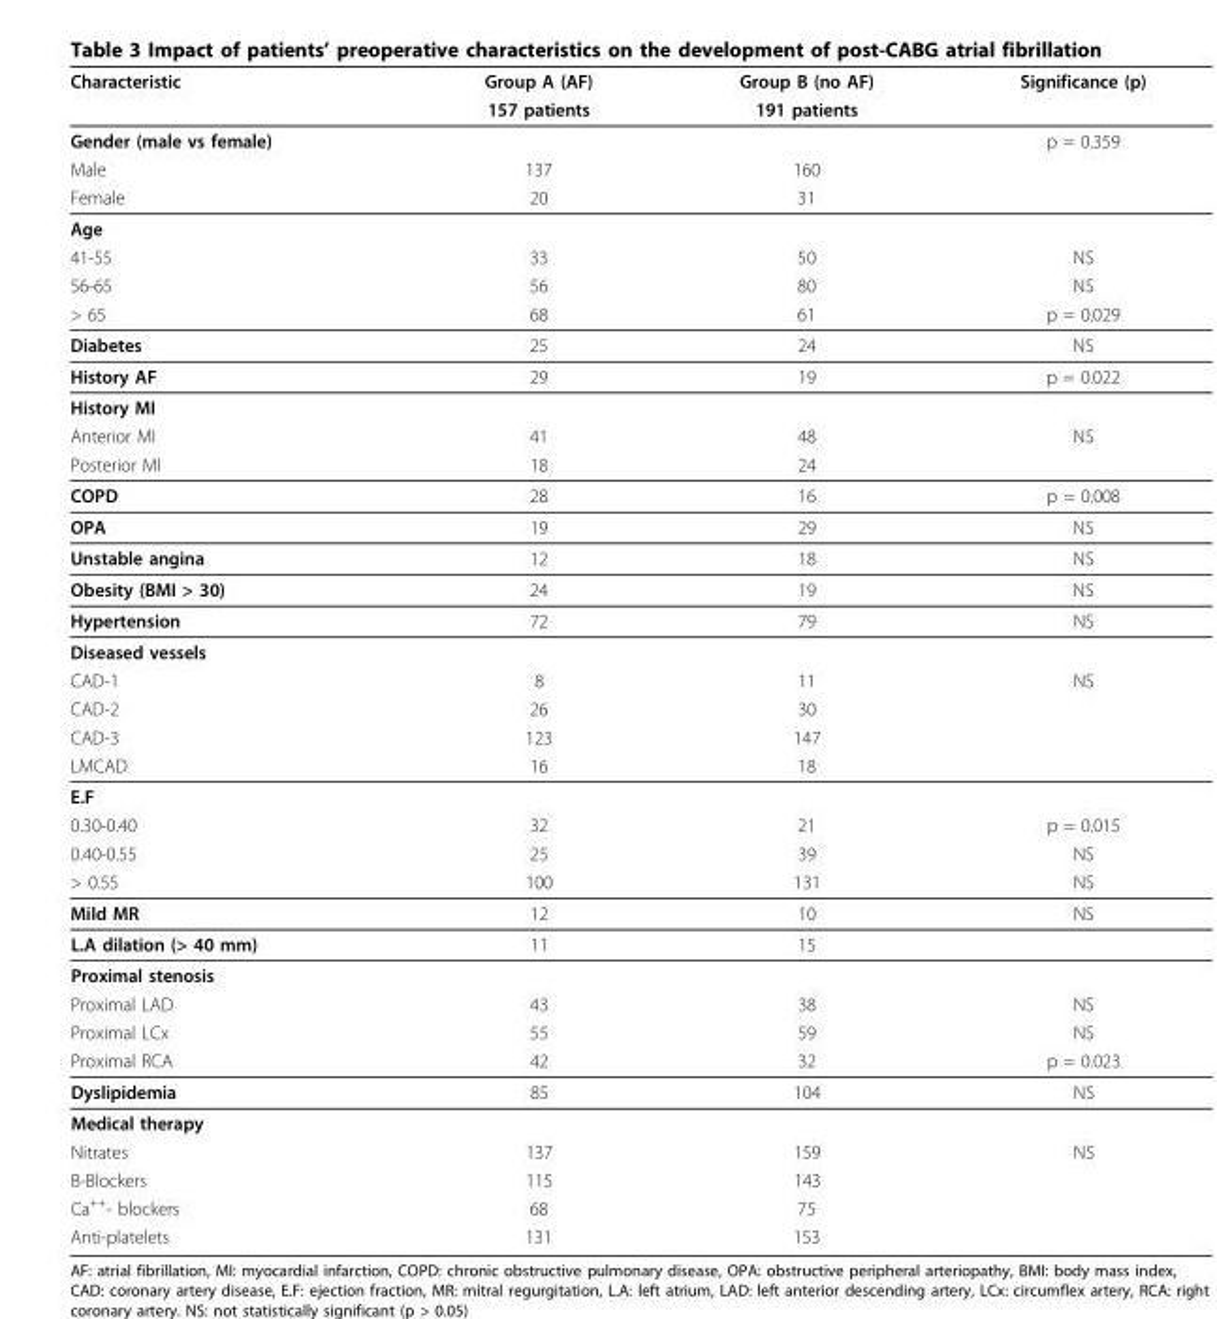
<table><thead><tr><td rowspan="2">Characteristic</td><td rowspan="2">Group A (AF) 157 patients</td><td rowspan="2">Group B (no AF) 191 patients</td><td rowspan="2">Significance (p)</td></tr><tr></tr></thead><tbody><tr><td>Gender (male vs female)</td><td></td><td></td><td>p = 0.359</td></tr><tr><td>Male</td><td>137</td><td>160</td><td></td></tr><tr><td>Female</td><td>20</td><td>31</td><td></td></tr><tr><td colspan="4">Age</td></tr><tr><td>41-55</td><td>33</td><td>50</td><td>NS</td></tr><tr><td>56-65</td><td>56</td><td>80</td><td>NS</td></tr><tr><td>&gt; 65</td><td>68</td><td>61</td><td>p = 0.029</td></tr><tr><td>Diabetes</td><td>25</td><td>24</td><td>NS</td></tr><tr><td>History AF</td><td>29</td><td>19</td><td>p = 0.022</td></tr><tr><td colspan="4">History MI</td></tr><tr><td>Anterior MI</td><td>41</td><td>48</td><td>NS</td></tr><tr><td>Posterior MI</td><td>18</td><td>24</td><td></td></tr><tr><td>COPD</td><td>28</td><td>16</td><td>p = 0.008</td></tr><tr><td>OPA</td><td>19</td><td>29</td><td>NS</td></tr><tr><td>Unstable angina</td><td>12</td><td>18</td><td>NS</td></tr><tr><td>Obesity (BMI &gt; 30)</td><td>24</td><td>19</td><td>NS</td></tr><tr><td>Hypertension</td><td>72</td><td>79</td><td>NS</td></tr><tr><td colspan="4">Diseased vessels</td></tr><tr><td>CAD-1</td><td>8</td><td>11</td><td>NS</td></tr><tr><td>CAD-2</td><td>26</td><td>30</td><td></td></tr><tr><td>CAD-3</td><td>123</td><td>147</td><td></td></tr><tr><td>LMCAD</td><td>16</td><td>18</td><td></td></tr><tr><td colspan="4">E.F</td></tr><tr><td>0.30-0.40</td><td>32</td><td>21</td><td>p = 0.015</td></tr><tr><td>0.40-0.55</td><td>25</td><td>39</td><td>NS</td></tr><tr><td>&gt; 0.55</td><td>100</td><td>131</td><td>NS</td></tr><tr><td>Mild MR</td><td>12</td><td>10</td><td>NS</td></tr><tr><td>L.A dilation (&gt; 40 mm)</td><td>11</td><td>15</td><td></td></tr><tr><td colspan="4">Proximal stenosis</td></tr><tr><td>Proximal LAD</td><td>43</td><td>38</td><td>NS</td></tr><tr><td>Proximal LCx</td><td>55</td><td>59</td><td>NS</td></tr><tr><td>Proximal RCA</td><td>42</td><td>32</td><td>p = 0.023</td></tr><tr><td>Dyslipidemia</td><td>85</td><td>104</td><td>NS</td></tr><tr><td colspan="4">Medical therapy</td></tr><tr><td>Nitrates</td><td>137</td><td>159</td><td>NS</td></tr><tr><td>Β-Blockers</td><td>115</td><td>143</td><td></td></tr><tr><td>Ca<sup>++</sup>- blockers</td><td>68</td><td>75</td><td></td></tr><tr><td>Anti-platelets</td><td>131</td><td>153</td><td></td></tr></tbody></table>